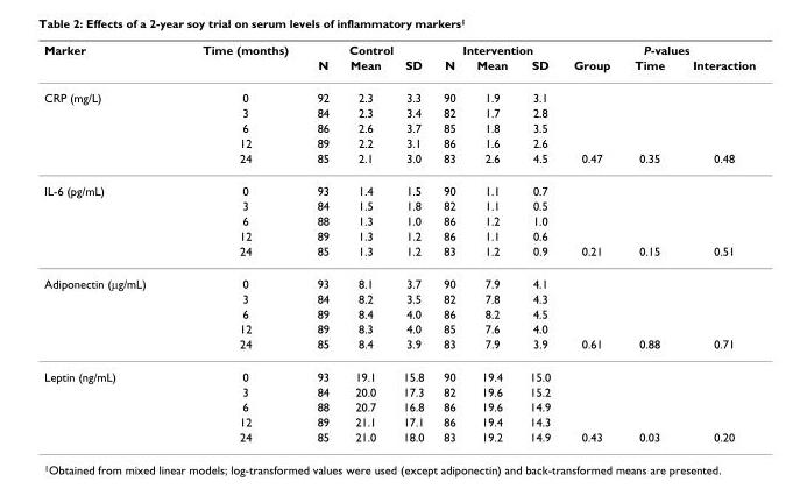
<table><thead><tr><td rowspan="2">Marker</td><td rowspan="2">Time (months)</td><td colspan="3">Control</td><td colspan="3">Intervention</td><td colspan="3">P-values</td></tr><tr><td>N</td><td>Mean</td><td>SD</td><td>N</td><td>Mean</td><td>SD</td><td>Group</td><td>Time</td><td>Interaction</td></tr></thead><tbody><tr><td rowspan="5">CRP (mg/L)</td><td>0</td><td>92</td><td>2.3</td><td>3.3</td><td>90</td><td>1.9</td><td>3.1</td><td></td><td></td><td></td></tr><tr><td>3</td><td>84</td><td>2.3</td><td>3.4</td><td>82</td><td>1.7</td><td>2.8</td><td></td><td></td><td></td></tr><tr><td>6</td><td>86</td><td>2.6</td><td>3.7</td><td>85</td><td>1.8</td><td>3.5</td><td></td><td></td><td></td></tr><tr><td>12</td><td>89</td><td>2.2</td><td>3.1</td><td>86</td><td>1.6</td><td>2.6</td><td></td><td></td><td></td></tr><tr><td>24</td><td>85</td><td>2.1</td><td>3.0</td><td>83</td><td>2.6</td><td>4.5</td><td>0.47</td><td>0.35</td><td>0.48</td></tr><tr><td rowspan="5">IL-6 (pg/mL)</td><td>0</td><td>93</td><td>1.4</td><td>1.5</td><td>90</td><td>1.1</td><td>0.7</td><td></td><td></td><td></td></tr><tr><td>3</td><td>84</td><td>1.5</td><td>1.8</td><td>82</td><td>1.1</td><td>0.5</td><td></td><td></td><td></td></tr><tr><td>6</td><td>88</td><td>1.3</td><td>1.0</td><td>86</td><td>1.2</td><td>1.0</td><td></td><td></td><td></td></tr><tr><td>12</td><td>89</td><td>1.3</td><td>1.2</td><td>86</td><td>1.1</td><td>0.6</td><td></td><td></td><td></td></tr><tr><td>24</td><td>85</td><td>1.3</td><td>1.2</td><td>83</td><td>1.2</td><td>0.9</td><td>0.21</td><td>0.15</td><td>0.51</td></tr><tr><td rowspan="5">Adiponectin (μg/mL)</td><td>0</td><td>93</td><td>8.1</td><td>3.7</td><td>90</td><td>7.9</td><td>4.1</td><td></td><td></td><td></td></tr><tr><td>3</td><td>84</td><td>8.2</td><td>3.5</td><td>82</td><td>7.8</td><td>4.3</td><td></td><td></td><td></td></tr><tr><td>6</td><td>89</td><td>8.4</td><td>4.0</td><td>86</td><td>8.2</td><td>4.5</td><td></td><td></td><td></td></tr><tr><td>12</td><td>89</td><td>8.3</td><td>4.0</td><td>85</td><td>7.6</td><td>4.0</td><td></td><td></td><td></td></tr><tr><td>24</td><td>85</td><td>8.4</td><td>3.9</td><td>83</td><td>7.9</td><td>3.9</td><td>0.61</td><td>0.88</td><td>0.71</td></tr><tr><td rowspan="5">Leptin (ng/mL)</td><td>0</td><td>93</td><td>19.1</td><td>15.8</td><td>90</td><td>19.4</td><td>15.0</td><td></td><td></td><td></td></tr><tr><td>3</td><td>84</td><td>20.0</td><td>17.3</td><td>82</td><td>19.6</td><td>15.2</td><td></td><td></td><td></td></tr><tr><td>6</td><td>88</td><td>20.7</td><td>16.8</td><td>86</td><td>19.6</td><td>14.9</td><td></td><td></td><td></td></tr><tr><td>12</td><td>89</td><td>21.1</td><td>17.1</td><td>86</td><td>19.4</td><td>14.3</td><td></td><td></td><td></td></tr><tr><td>24</td><td>85</td><td>21.0</td><td>18.0</td><td>83</td><td>19.2</td><td>14.9</td><td>0.43</td><td>0.03</td><td>0.20</td></tr></tbody></table>